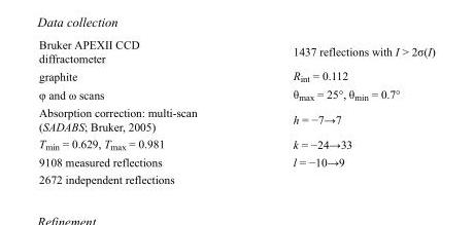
<table><tbody><tr><td>Bruker APEXII CCD diffractometer</td><td>1437 reflections with I &gt; 2σ(I)</td></tr><tr><td>graphite</td><td>R<sub>int</sub> = 0.112</td></tr><tr><td>φ and ω scans</td><td>θ<sub>max</sub> = 25°, θ<sub>min</sub> = 0.7°</td></tr><tr><td>Absorption correction: multi-scan (SADABS; Bruker, 2005)</td><td>h = −7→7</td></tr><tr><td>T<sub>min</sub> = 0.629, T<sub>max</sub> = 0.981</td><td>k = −24→33</td></tr><tr><td>9108 measured reflections</td><td>l = −10→9</td></tr><tr><td>2672 independent reflections</td><td></td></tr></tbody></table>